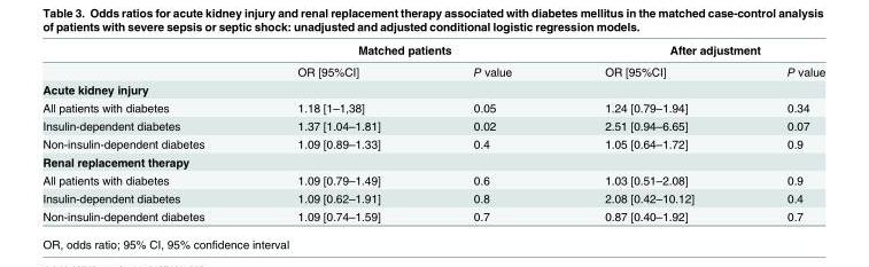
<table><thead><tr><td rowspan="2"></td><td colspan="2">Matched patients</td><td colspan="2">After adjustment</td></tr><tr><td>OR [95%CI]</td><td>P value</td><td>OR [95%CI]</td><td>P value</td></tr></thead><tbody><tr><td colspan="5">Acute kidney injury</td></tr><tr><td>All patients with diabetes</td><td>1.18 [1–1,38]</td><td>0.05</td><td>1.24 [0.79–1.94]</td><td>0.34</td></tr><tr><td>Insulin-dependent diabetes</td><td>1.37 [1.04–1.81]</td><td>0.02</td><td>2.51 [0.94–6.65]</td><td>0.07</td></tr><tr><td>Non-insulin-dependent diabetes</td><td>1.09 [0.89–1.33]</td><td>0.4</td><td>1.05 [0.64–1.72]</td><td>0.9</td></tr><tr><td colspan="5">Renal replacement therapy</td></tr><tr><td>All patients with diabetes</td><td>1.09 [0.79–1.49]</td><td>0.6</td><td>1.03 [0.51–2.08]</td><td>0.9</td></tr><tr><td>Insulin-dependent diabetes</td><td>1.09 [0.62–1.91]</td><td>0.8</td><td>2.08 [0.42–10.12]</td><td>0.4</td></tr><tr><td>Non-insulin-dependent diabetes</td><td>1.09 [0.74–1.59]</td><td>0.7</td><td>0.87 [0.40–1.92]</td><td>0.7</td></tr></tbody></table>